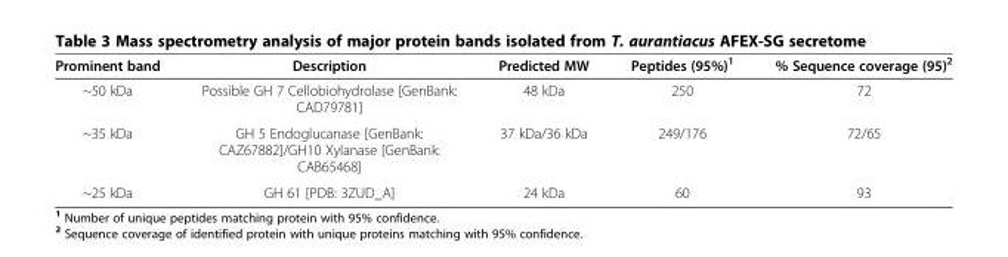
<table><thead><tr><td>Prominent band</td><td>Description</td><td>Predicted MW</td><td>Peptides (95%)<sup>1</sup></td><td>% Sequence coverage (95)<sup>2</sup></td></tr></thead><tbody><tr><td>~50 kDa</td><td>Possible GH 7 Cellobiohydrolase [GenBank: CAD79781]</td><td>48 kDa</td><td>250</td><td>72</td></tr><tr><td>~35 kDa</td><td>GH 5 Endoglucanase [GenBank: CAZ67882]/GH10 Xylanase [GenBank: CAB65468]</td><td>37 kDa/36 kDa</td><td>249/176</td><td>72/65</td></tr><tr><td>~25 kDa</td><td>GH 61 [PDB: 3ZUD_A]</td><td>24 kDa</td><td>60</td><td>93</td></tr></tbody></table>